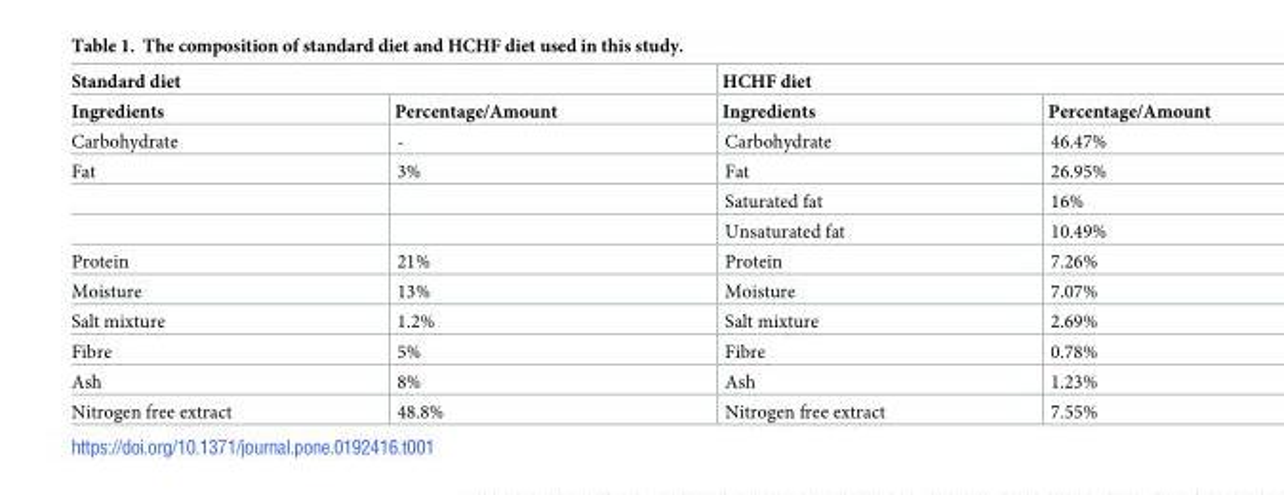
<table><thead><tr><td colspan="2">Standard diet</td><td colspan="2">HCHF diet</td></tr><tr><td>Ingredients</td><td>Percentage/Amount</td><td>Ingredients</td><td>Percentage/Amount</td></tr></thead><tbody><tr><td>Carbohydrate</td><td>-</td><td>Carbohydrate</td><td>46.47%</td></tr><tr><td rowspan="3">Fat</td><td>3%</td><td>Fat</td><td>26.95%</td></tr><tr><td></td><td>Saturated fat</td><td>16%</td></tr><tr><td></td><td>Unsaturated fat</td><td>10.49%</td></tr><tr><td>Protein</td><td>21%</td><td>Protein</td><td>7.26%</td></tr><tr><td>Moisture</td><td>13%</td><td>Moisture</td><td>7.07%</td></tr><tr><td>Salt mixture</td><td>1.2%</td><td>Salt mixture</td><td>2.69%</td></tr><tr><td>Fibre</td><td>5%</td><td>Fibre</td><td>0.78%</td></tr><tr><td>Ash</td><td>8%</td><td>Ash</td><td>1.23%</td></tr><tr><td>Nitrogen free extract</td><td>48.8%</td><td>Nitrogen free extract</td><td>7.55%</td></tr></tbody></table>